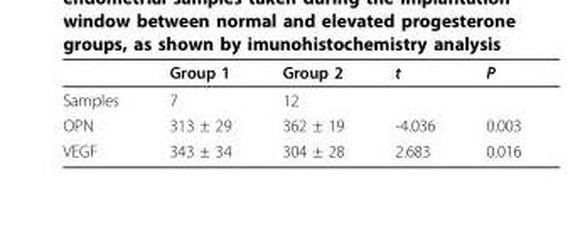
<table><thead><tr><td></td><td>Group 1</td><td>Group 2</td><td>t</td><td>P</td></tr></thead><tbody><tr><td>Samples</td><td>7</td><td>12</td><td></td><td></td></tr><tr><td>OPN</td><td>313 ± 29</td><td>362 ± 19</td><td>-4.036</td><td>0.003</td></tr><tr><td>VEGF</td><td>343 ± 34</td><td>304 ± 28</td><td>2.683</td><td>0.016</td></tr></tbody></table>